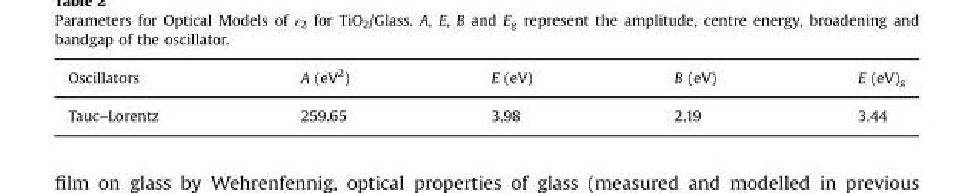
<table><thead><tr><td>Oscillators</td><td>A (eV<sup>2</sup>)</td><td>E (eV)</td><td>B (eV)</td><td>E (eV)<sub>g</sub></td></tr></thead><tbody><tr><td>Tauc–Lorentz</td><td>259.65</td><td>3.98</td><td>2.19</td><td>3.44</td></tr></tbody></table>